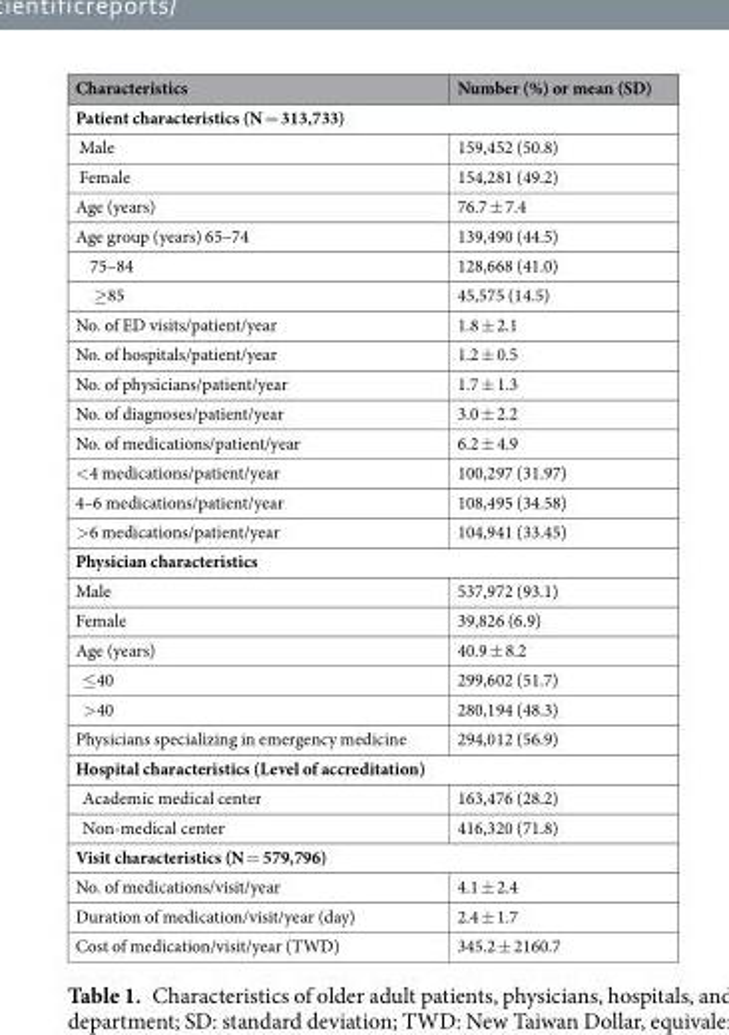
<table><thead><tr><td>Characteristics</td><td>Number (%) or mean (SD)</td></tr></thead><tbody><tr><td colspan="2">Patient characteristics (N = 313,733)</td></tr><tr><td>Male</td><td>159,452 (50.8)</td></tr><tr><td>Female</td><td>154,281 (49.2)</td></tr><tr><td>Age (years)</td><td>76.7 ± 7.4</td></tr><tr><td>Age group (years) 65–74</td><td>139,490 (44.5)</td></tr><tr><td>75–84</td><td>128,668 (41.0)</td></tr><tr><td>≥85</td><td>45,575 (14.5)</td></tr><tr><td>No. of ED visits/patient/year</td><td>1.8 ± 2.1</td></tr><tr><td>No. of hospitals/patient/year</td><td>1.2 ± 0.5</td></tr><tr><td>No. of physicians/patient/year</td><td>1.7 ± 1.3</td></tr><tr><td>No. of diagnoses/patient/year</td><td>3.0 ± 2.2</td></tr><tr><td>No. of medications/patient/year</td><td>6.2 ± 4.9</td></tr><tr><td>&lt;4 medications/patient/year</td><td>100,297 (31.97)</td></tr><tr><td>4–6 medications/patient/year</td><td>108,495 (34.58)</td></tr><tr><td>&gt;6 medications/patient/year</td><td>104,941 (33.45)</td></tr><tr><td colspan="2">Physician characteristics</td></tr><tr><td>Male</td><td>537,972 (93.1)</td></tr><tr><td>Female</td><td>39,826 (6.9)</td></tr><tr><td>Age (years)</td><td>40.9 ± 8.2</td></tr><tr><td>≤40</td><td>299,602 (51.7)</td></tr><tr><td>&gt;40</td><td>280,194 (48.3)</td></tr><tr><td>Physicians specializing in emergency medicine</td><td>294,012 (56.9)</td></tr><tr><td colspan="2">Hospital characteristics (Level of accreditation)</td></tr><tr><td>Academic medical center</td><td>163,476 (28.2)</td></tr><tr><td>Non-medical center</td><td>416,320 (71.8)</td></tr><tr><td colspan="2">Visit characteristics (N = 579,796)</td></tr><tr><td>No. of medications/visit/year</td><td>4.1 ± 2.4</td></tr><tr><td>Duration of medication/visit/year (day)</td><td>2.4 ± 1.7</td></tr><tr><td>Cost of medication/visit/year (TWD)</td><td>345.2 ± 2160.7</td></tr></tbody></table>